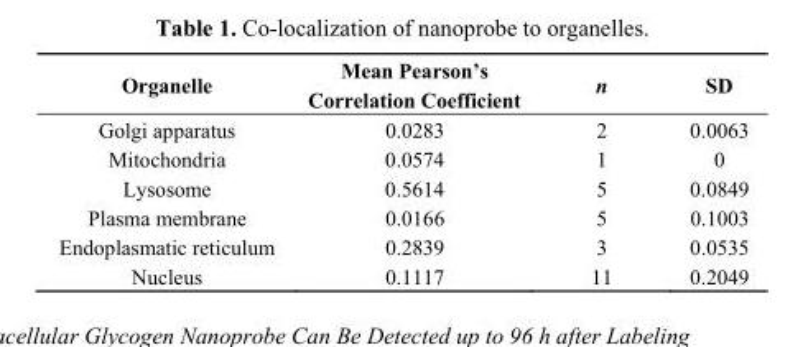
<table><thead><tr><td>Organelle</td><td>Mean Pearson’s Correlation Coefficient</td><td>n</td><td>SD</td></tr></thead><tbody><tr><td>Golgi apparatus</td><td>0.0283</td><td>2</td><td>0.0063</td></tr><tr><td>Mitochondria</td><td>0.0574</td><td>1</td><td>0</td></tr><tr><td>Lysosome</td><td>0.5614</td><td>5</td><td>0.0849</td></tr><tr><td>Plasma membrane</td><td>0.0166</td><td>5</td><td>0.1003</td></tr><tr><td>Endoplasmatic reticulum</td><td>0.2839</td><td>3</td><td>0.0535</td></tr><tr><td>Nucleus</td><td>0.1117</td><td>11</td><td>0.2049</td></tr></tbody></table>